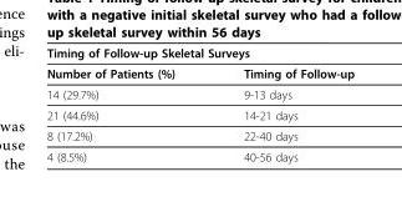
<table><thead><tr><td colspan="2">Timing of Follow-up Skeletal Surveys</td></tr><tr><td>Number of Patients (%)</td><td>Timing of Follow-up</td></tr></thead><tbody><tr><td>14 (29.7%)</td><td>9-13 days</td></tr><tr><td>21 (44.6%)</td><td>14-21 days</td></tr><tr><td>8 (17.2%)</td><td>22-40 days</td></tr><tr><td>4 (8.5%)</td><td>40-56 days</td></tr></tbody></table>